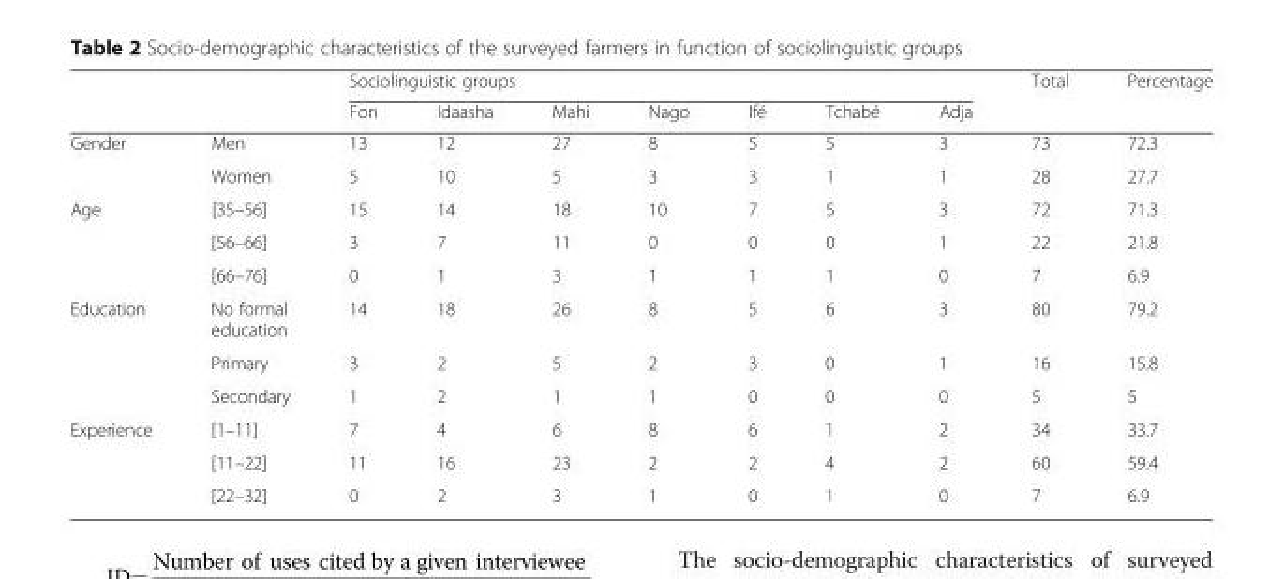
<table><thead><tr><td rowspan="2"></td><td rowspan="2"></td><td colspan="7">Sociolinguistic groups</td><td rowspan="2">Total</td><td rowspan="2">Percentage</td></tr><tr><td>Fon</td><td>Idaasha</td><td>Mahi</td><td>Nago</td><td>Ifé</td><td>Tchabé</td><td>Adja</td></tr></thead><tbody><tr><td rowspan="2">Gender</td><td>Men</td><td>13</td><td>12</td><td>27</td><td>8</td><td>5</td><td>5</td><td>3</td><td>73</td><td>72.3</td></tr><tr><td>Women</td><td>5</td><td>10</td><td>5</td><td>3</td><td>3</td><td>1</td><td>1</td><td>28</td><td>27.7</td></tr><tr><td rowspan="3">Age</td><td>[35–56]</td><td>15</td><td>14</td><td>18</td><td>10</td><td>7</td><td>5</td><td>3</td><td>72</td><td>71.3</td></tr><tr><td>[56–66]</td><td>3</td><td>7</td><td>11</td><td>0</td><td>0</td><td>0</td><td>1</td><td>22</td><td>21.8</td></tr><tr><td>[66–76]</td><td>0</td><td>1</td><td>3</td><td>1</td><td>1</td><td>1</td><td>0</td><td>7</td><td>6.9</td></tr><tr><td rowspan="3">Education</td><td>No formal education</td><td>14</td><td>18</td><td>26</td><td>8</td><td>5</td><td>6</td><td>3</td><td>80</td><td>79.2</td></tr><tr><td>Primary</td><td>3</td><td>2</td><td>5</td><td>2</td><td>3</td><td>0</td><td>1</td><td>16</td><td>15.8</td></tr><tr><td>Secondary</td><td>1</td><td>2</td><td>1</td><td>1</td><td>0</td><td>0</td><td>0</td><td>5</td><td>5</td></tr><tr><td rowspan="3">Experience</td><td>[1–11]</td><td>7</td><td>4</td><td>6</td><td>8</td><td>6</td><td>1</td><td>2</td><td>34</td><td>33.7</td></tr><tr><td>[11–22]</td><td>11</td><td>16</td><td>23</td><td>2</td><td>2</td><td>4</td><td>2</td><td>60</td><td>59.4</td></tr><tr><td>[22–32]</td><td>0</td><td>2</td><td>3</td><td>1</td><td>0</td><td>1</td><td>0</td><td>7</td><td>6.9</td></tr></tbody></table>